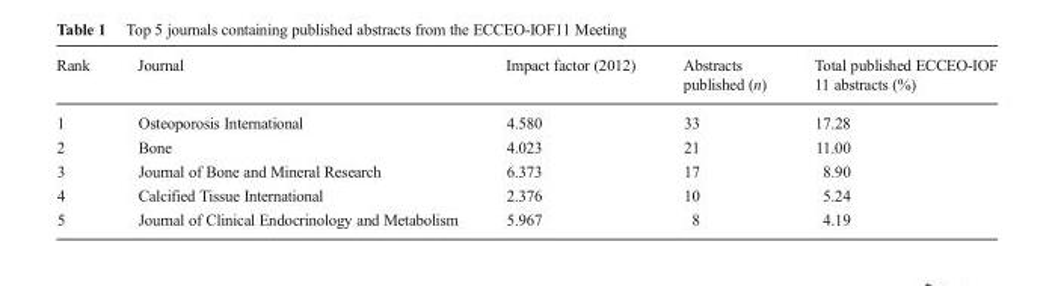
<table><thead><tr><td>Rank</td><td>Journal</td><td>Impact factor (2012)</td><td>Abstracts published (n)</td><td>Total published ECCEO-IOF 11 abstracts (%)</td></tr></thead><tbody><tr><td>1</td><td>Osteoporosis International</td><td>4.580</td><td>33</td><td>17.28</td></tr><tr><td>2</td><td>Bone</td><td>4.023</td><td>21</td><td>11.00</td></tr><tr><td>3</td><td>Journal of Bone and Mineral Research</td><td>6.373</td><td>17</td><td>8.90</td></tr><tr><td>4</td><td>Calcified Tissue International</td><td>2.376</td><td>10</td><td>5.24</td></tr><tr><td>5</td><td>Journal of Clinical Endocrinology and Metabolism</td><td>5.967</td><td>8</td><td>4.19</td></tr></tbody></table>